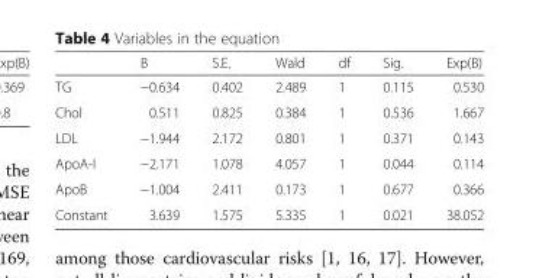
<table><thead><tr><td></td><td>B</td><td>S.E.</td><td>Wald</td><td>df</td><td>Sig.</td><td>Exp(B)</td></tr></thead><tbody><tr><td>TG</td><td>−0.634</td><td>0.402</td><td>2.489</td><td>1</td><td>0.115</td><td>0.530</td></tr><tr><td>Chol</td><td>0.511</td><td>0.825</td><td>0.384</td><td>1</td><td>0.536</td><td>1.667</td></tr><tr><td>LDL</td><td>−1.944</td><td>2.172</td><td>0.801</td><td>1</td><td>0.371</td><td>0.143</td></tr><tr><td>ApoA-I</td><td>−2.171</td><td>1.078</td><td>4.057</td><td>1</td><td>0.044</td><td>0.114</td></tr><tr><td>ApoB</td><td>−1.004</td><td>2.411</td><td>0.173</td><td>1</td><td>0.677</td><td>0.366</td></tr><tr><td>Constant</td><td>3.639</td><td>1.575</td><td>5.335</td><td>1</td><td>0.021</td><td>38.052</td></tr></tbody></table>